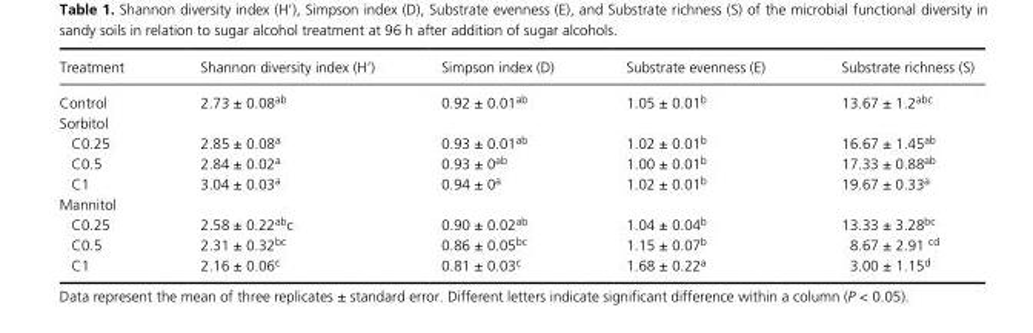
<table><thead><tr><td>Treatment</td><td>Shannon diversity index (H’)</td><td>Simpson index (D)</td><td>Substrate evenness (E)</td><td>Substrate richness (S)</td></tr></thead><tbody><tr><td>Control</td><td>2.73 ± 0.08<sup>ab</sup></td><td>0.92 ± 0.01<sup>ab</sup></td><td>1.05 ± 0.01<sup>b</sup></td><td>13.67 ± 1.2<sup>abc</sup></td></tr><tr><td colspan="5">Sorbitol</td></tr><tr><td>C0.25</td><td>2.85 ± 0.08<sup>a</sup></td><td>0.93 ± 0.01<sup>ab</sup></td><td>1.02 ± 0.01<sup>b</sup></td><td>16.67 ± 1.45<sup>ab</sup></td></tr><tr><td>C0.5</td><td>2.84 ± 0.02<sup>a</sup></td><td>0.93 ± 0<sup>ab</sup></td><td>1.00 ± 0.01<sup>b</sup></td><td>17.33 ± 0.88<sup>ab</sup></td></tr><tr><td>C1</td><td>3.04 ± 0.03<sup>a</sup></td><td>0.94 ± 0<sup>a</sup></td><td>1.02 ± 0.01<sup>b</sup></td><td>19.67 ± 0.33<sup>a</sup></td></tr><tr><td colspan="5">Mannitol</td></tr><tr><td>C0.25</td><td>2.58 ± 0.22<sup>abc</sup></td><td>0.90 ± 0.02<sup>ab</sup></td><td>1.04 ± 0.04<sup>b</sup></td><td>13.33 ± 3.28<sup>bc</sup></td></tr><tr><td>C0.5</td><td>2.31 ± 0.32<sup>bc</sup></td><td>0.86 ± 0.05<sup>bc</sup></td><td>1.15 ± 0.07<sup>b</sup></td><td>8.67 ± 2.91 <sup>cd</sup></td></tr><tr><td>C1</td><td>2.16 ± 0.06<sup>c</sup></td><td>0.81 ± 0.03<sup>c</sup></td><td>1.68 ± 0.22<sup>a</sup></td><td>3.00 ± 1.15<sup>d</sup></td></tr></tbody></table>